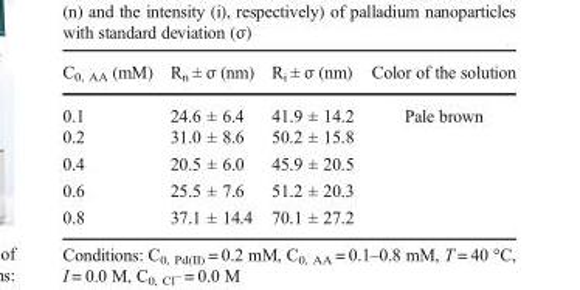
<table><thead><tr><td>C<sub>0, AA</sub> (mM)</td><td>R<sub>n</sub> ± σ (nm)</td><td>R<sub>i</sub> ± σ (nm)</td><td>Color of the solution</td></tr></thead><tbody><tr><td>0.1</td><td>24.6 ± 6.4</td><td>41.9 ± 14.2</td><td rowspan="5">Pale brown</td></tr><tr><td>0.2</td><td>31.0 ± 8.6</td><td>50.2 ± 15.8</td></tr><tr><td>0.4</td><td>20.5 ± 6.0</td><td>45.9 ± 20.5</td></tr><tr><td>0.6</td><td>25.5 ± 7.6</td><td>51.2 ± 20.3</td></tr><tr><td>0.8</td><td>37.1 ± 14.4</td><td>70.1 ± 27.2</td></tr></tbody></table>